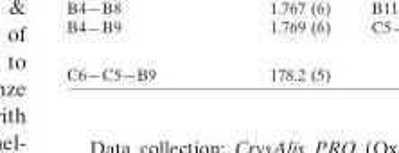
<table><tbody><tr><td>C6—C5—B9</td><td>178.2 (5)</td></tr></tbody></table>